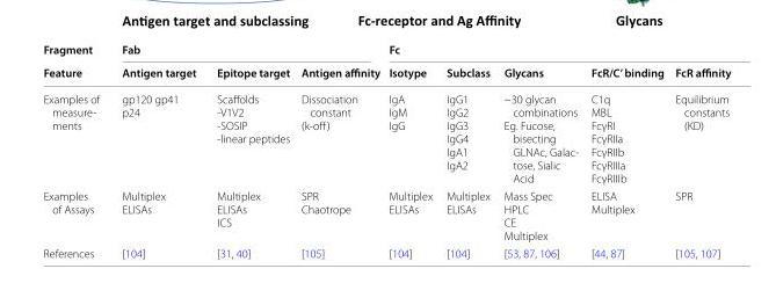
<table><thead><tr><td rowspan="2">Fragment Feature</td><td colspan="3">Fab</td><td colspan="5">Fc</td></tr><tr><td>Antigen target</td><td>Epitope target</td><td>Antigen affinity</td><td>Isotype</td><td>Subclass</td><td>Glycans</td><td>FcR/C’ binding</td><td>FcR affinity</td></tr></thead><tbody><tr><td>Examples of measure- ments</td><td>gp120 gp41 p24</td><td>Scaffolds -V1V2 -SOSIP -linear peptides</td><td>Dissociation constant (k-off)</td><td>IgA IgM IgG</td><td>IgG1 IgG2 IgG3 IgG4 IgA1 IgA2</td><td>~30 glycan combinations Eg. Fucose, bisecting GLNAc, Galac- tose, Sialic Acid</td><td>C1q MBL FcγRI FcγRIIa FcγRIIb FcγRIIIa FcγRIIIb</td><td>Equilibrium constants (KD)</td></tr><tr><td>Examples of Assays</td><td>Multiplex ELISAs</td><td>Multiplex ELISAs ICS</td><td>SPR Chaotrope</td><td>Multiplex ELISAs</td><td>Multiplex ELISAs</td><td>Mass Spec HPLC CE Multiplex</td><td>ELISA Multiplex</td><td>SPR</td></tr><tr><td>References</td><td>[104]</td><td>[31, 40]</td><td>[105]</td><td>[104]</td><td>[104]</td><td>[53, 87, 106]</td><td>[44, 87]</td><td>[105, 107]</td></tr></tbody></table>